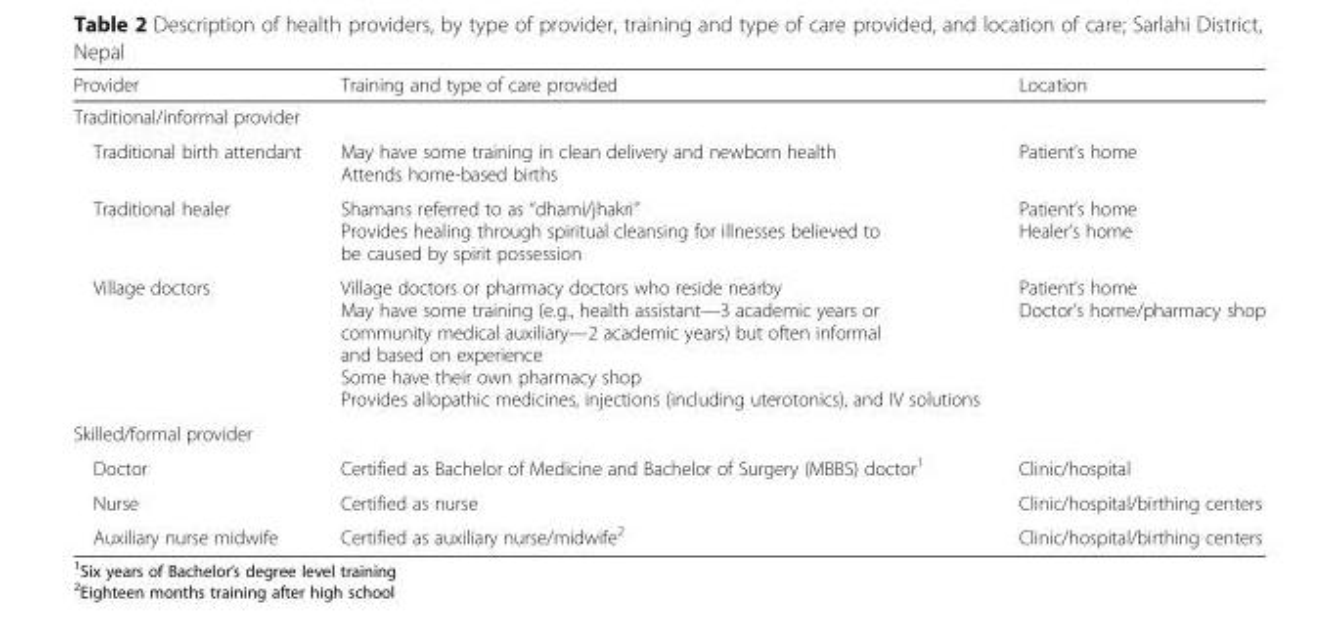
<table><thead><tr><td>Provider</td><td>Training and type of care provided</td><td>Location</td></tr></thead><tbody><tr><td colspan="3">Traditional/informal provider</td></tr><tr><td>Traditional birth attendant</td><td>May have some training in clean delivery and newborn health Attends home-based births</td><td>Patient’s home</td></tr><tr><td>Traditional healer</td><td>Shamans referred to as “dhami/jhakri” Provides healing through spiritual cleansing for illnesses believed to be caused by spirit possession</td><td>Patient’s home Healer’s home</td></tr><tr><td>Village doctors</td><td>Village doctors or pharmacy doctors who reside nearby May have some training (e.g., health assistant—3 academic years or community medical auxiliary—2 academic years) but often informal and based on experience Some have their own pharmacy shop Provides allopathic medicines, injections (including uterotonics), and IV solutions</td><td>Patient’s home Doctor’s home/pharmacy shop</td></tr><tr><td colspan="3">Skilled/formal provider</td></tr><tr><td>Doctor</td><td>Certified as Bachelor of Medicine and Bachelor of Surgery (MBBS) doctor<sup>1</sup></td><td>Clinic/hospital</td></tr><tr><td>Nurse</td><td>Certified as nurse</td><td>Clinic/hospital/birthing centers</td></tr><tr><td>Auxiliary nurse midwife</td><td>Certified as auxiliary nurse/midwife<sup>2</sup></td><td>Clinic/hospital/birthing centers</td></tr></tbody></table>